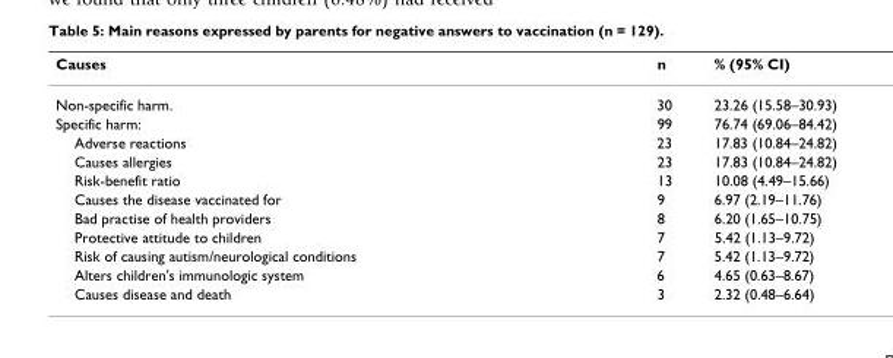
<table><thead><tr><td>Causes</td><td>n</td><td>% (95% CI)</td></tr></thead><tbody><tr><td>Non-specific harm.</td><td>30</td><td>23.26 (15.58–30.93)</td></tr><tr><td>Specific harm:</td><td>99</td><td>76.74 (69.06–84.42)</td></tr><tr><td>Adverse reactions</td><td>23</td><td>17.83 (10.84–24.82)</td></tr><tr><td>Causes allergies</td><td>23</td><td>17.83 (10.84–24.82)</td></tr><tr><td>Risk-benefit ratio</td><td>13</td><td>10.08 (4.49–15.66)</td></tr><tr><td>Causes the disease vaccinated for</td><td>9</td><td>6.97 (2.19–11.76)</td></tr><tr><td>Bad practise of health providers</td><td>8</td><td>6.20 (1.65–10.75)</td></tr><tr><td>Protective attitude to children</td><td>7</td><td>5.42 (1.13–9.72)</td></tr><tr><td>Risk of causing autism/neurological conditions</td><td>7</td><td>5.42 (1.13–9.72)</td></tr><tr><td>Alters children&#x27;s immunologic system</td><td>6</td><td>4.65 (0.63–8.67)</td></tr><tr><td>Causes disease and death</td><td>3</td><td>2.32 (0.48–6.64)</td></tr></tbody></table>